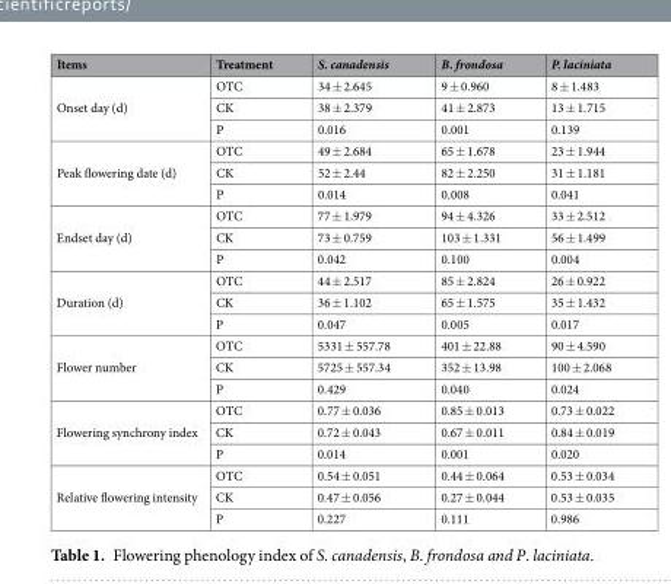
<table><thead><tr><td>Items</td><td>Treatment</td><td>S. canadensis</td><td>B. frondosa</td><td>P. laciniata</td></tr></thead><tbody><tr><td rowspan="3">Onset day (d)</td><td>OTC</td><td>34 ± 2.645</td><td>9 ± 0.960</td><td>8 ± 1.483</td></tr><tr><td>CK</td><td>38 ± 2.379</td><td>41 ± 2.873</td><td>13 ± 1.715</td></tr><tr><td>P</td><td>0.016</td><td>0.001</td><td>0.139</td></tr><tr><td rowspan="3">Peak flowering date (d)</td><td>OTC</td><td>49 ± 2.684</td><td>65 ± 1.678</td><td>23 ± 1.944</td></tr><tr><td>CK</td><td>52 ± 2.44</td><td>82 ± 2.250</td><td>31 ± 1.181</td></tr><tr><td>P</td><td>0.014</td><td>0.008</td><td>0.041</td></tr><tr><td rowspan="3">Endset day (d)</td><td>OTC</td><td>77 ± 1.979</td><td>94 ± 4.326</td><td>33 ± 2.512</td></tr><tr><td>CK</td><td>73 ± 0.759</td><td>103 ± 1.331</td><td>56 ± 1.499</td></tr><tr><td>P</td><td>0.042</td><td>0.100</td><td>0.004</td></tr><tr><td rowspan="3">Duration (d)</td><td>OTC</td><td>44 ± 2.517</td><td>85 ± 2.824</td><td>26 ± 0.922</td></tr><tr><td>CK</td><td>36 ± 1.102</td><td>65 ± 1.575</td><td>35 ± 1.432</td></tr><tr><td>P</td><td>0.047</td><td>0.005</td><td>0.017</td></tr><tr><td rowspan="3">Flower number</td><td>OTC</td><td>5331 ± 557.78</td><td>401 ± 22.88</td><td>90 ± 4.590</td></tr><tr><td>CK</td><td>5725 ± 557.34</td><td>352 ± 13.98</td><td>100 ± 2.068</td></tr><tr><td>P</td><td>0.429</td><td>0.040</td><td>0.024</td></tr><tr><td rowspan="3">Flowering synchrony index</td><td>OTC</td><td>0.77 ± 0.036</td><td>0.85 ± 0.013</td><td>0.73 ± 0.022</td></tr><tr><td>CK</td><td>0.72 ± 0.043</td><td>0.67 ± 0.011</td><td>0.84 ± 0.019</td></tr><tr><td>P</td><td>0.014</td><td>0.001</td><td>0.020</td></tr><tr><td rowspan="3">Relative flowering intensity</td><td>OTC</td><td>0.54 ± 0.051</td><td>0.44 ± 0.064</td><td>0.53 ± 0.034</td></tr><tr><td>CK</td><td>0.47 ± 0.056</td><td>0.27 ± 0.044</td><td>0.53 ± 0.035</td></tr><tr><td>P</td><td>0.227</td><td>0.111</td><td>0.986</td></tr></tbody></table>